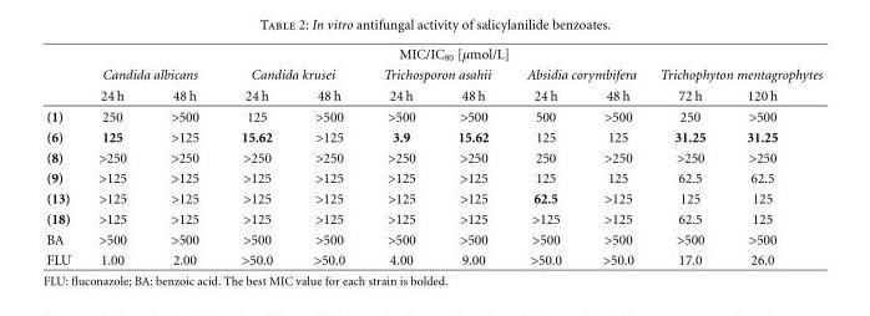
<table><thead><tr><td rowspan="3"></td><td colspan="10">MIC/IC<sub>80</sub> [μmol/L]</td></tr><tr><td colspan="2">Candida albicans</td><td colspan="2">Candida krusei</td><td colspan="2">Trichosporon asahii</td><td colspan="2">Absidia corymbifera</td><td colspan="2">Trichophyton mentagrophytes</td></tr><tr><td>24 h</td><td>48 h</td><td>24 h</td><td>48 h</td><td>24 h</td><td>48 h</td><td>24 h</td><td>48 h</td><td>72 h</td><td>120 h</td></tr></thead><tbody><tr><td>(1)</td><td>250</td><td>&gt;500</td><td>125</td><td>&gt;500</td><td>&gt;500</td><td>&gt;500</td><td>500</td><td>&gt;500</td><td>250</td><td>&gt;500</td></tr><tr><td>(6)</td><td>125</td><td>&gt;125</td><td>15.62</td><td>&gt;125</td><td>3.9</td><td>15.62</td><td>125</td><td>125</td><td>31.25</td><td>31.25</td></tr><tr><td>(8)</td><td>&gt;250</td><td>&gt;250</td><td>&gt;250</td><td>&gt;250</td><td>&gt;250</td><td>&gt;250</td><td>250</td><td>&gt;250</td><td>&gt;250</td><td>&gt;250</td></tr><tr><td>(9)</td><td>&gt;125</td><td>&gt;125</td><td>&gt;125</td><td>&gt;125</td><td>&gt;125</td><td>&gt;125</td><td>125</td><td>125</td><td>62.5</td><td>62.5</td></tr><tr><td>(13)</td><td>&gt;125</td><td>&gt;125</td><td>&gt;125</td><td>&gt;125</td><td>&gt;125</td><td>&gt;125</td><td>62.5</td><td>&gt;125</td><td>125</td><td>125</td></tr><tr><td>(18)</td><td>&gt;125</td><td>&gt;125</td><td>&gt;125</td><td>&gt;125</td><td>&gt;125</td><td>&gt;125</td><td>&gt;125</td><td>&gt;125</td><td>62.5</td><td>125</td></tr><tr><td>BA</td><td>&gt;500</td><td>&gt;500</td><td>&gt;500</td><td>&gt;500</td><td>&gt;500</td><td>&gt;500</td><td>&gt;500</td><td>&gt;500</td><td>&gt;500</td><td>&gt;500</td></tr><tr><td>FLU</td><td>1.00</td><td>2.00</td><td>&gt;50.0</td><td>&gt;50.0</td><td>4.00</td><td>9.00</td><td>&gt;50.0</td><td>&gt;50.0</td><td>17.0</td><td>26.0</td></tr></tbody></table>